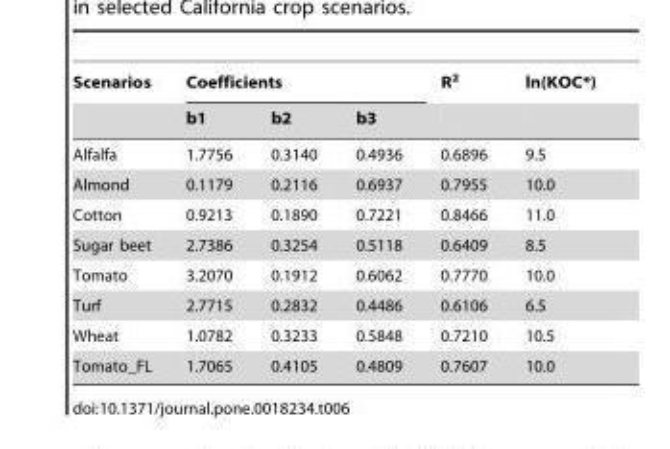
<table><thead><tr><td rowspan="2">Scenarios</td><td colspan="3">Coefficients</td><td rowspan="2">R<sup>2</sup></td><td rowspan="2">ln(KOC*)</td></tr><tr><td>b1</td><td>b2</td><td>b3</td></tr></thead><tbody><tr><td>Alfalfa</td><td>1.7756</td><td>0.3140</td><td>0.4936</td><td>0.6896</td><td>9.5</td></tr><tr><td>Almond</td><td>0.1179</td><td>0.2116</td><td>0.6937</td><td>0.7955</td><td>10.0</td></tr><tr><td>Cotton</td><td>0.9213</td><td>0.1890</td><td>0.7221</td><td>0.8466</td><td>11.0</td></tr><tr><td>Sugar beet</td><td>2.7386</td><td>0.3254</td><td>0.5118</td><td>0.6409</td><td>8.5</td></tr><tr><td>Tomato</td><td>3.2070</td><td>0.1912</td><td>0.6062</td><td>0.7770</td><td>10.0</td></tr><tr><td>Turf</td><td>2.7715</td><td>0.2832</td><td>0.4486</td><td>0.6106</td><td>6.5</td></tr><tr><td>Wheat</td><td>1.0782</td><td>0.3233</td><td>0.5848</td><td>0.7210</td><td>10.5</td></tr><tr><td>Tomato_FL</td><td>1.7065</td><td>0.4105</td><td>0.4809</td><td>0.7607</td><td>10.0</td></tr></tbody></table>